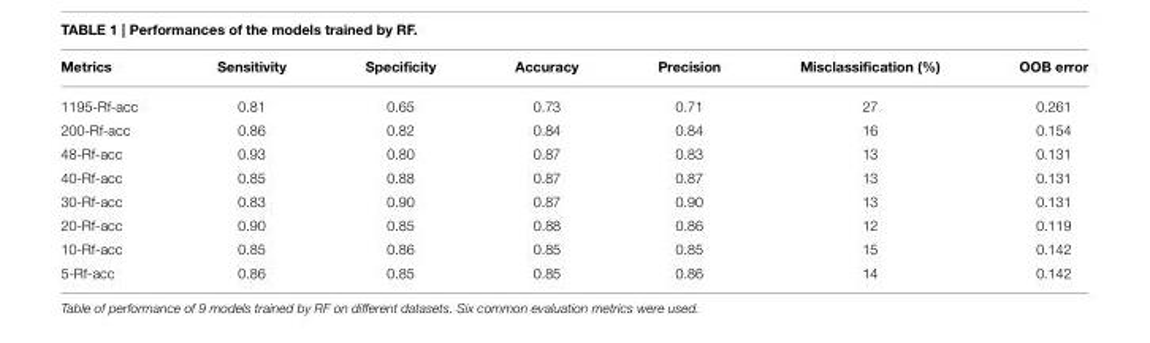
<table><thead><tr><td>Metrics</td><td>Sensitivity</td><td>Specificity</td><td>Accuracy</td><td>Precision</td><td>Misclassification (%)</td><td>OOB error</td></tr></thead><tbody><tr><td>1195-Rf-acc</td><td>0.81</td><td>0.65</td><td>0.73</td><td>0.71</td><td>27</td><td>0.261</td></tr><tr><td>200-Rf-acc</td><td>0.86</td><td>0.82</td><td>0.84</td><td>0.84</td><td>16</td><td>0.154</td></tr><tr><td>48-Rf-acc</td><td>0.93</td><td>0.80</td><td>0.87</td><td>0.83</td><td>13</td><td>0.131</td></tr><tr><td>40-Rf-acc</td><td>0.85</td><td>0.88</td><td>0.87</td><td>0.87</td><td>13</td><td>0.131</td></tr><tr><td>30-Rf-acc</td><td>0.83</td><td>0.90</td><td>0.87</td><td>0.90</td><td>13</td><td>0.131</td></tr><tr><td>20-Rf-acc</td><td>0.90</td><td>0.85</td><td>0.88</td><td>0.86</td><td>12</td><td>0.119</td></tr><tr><td>10-Rf-acc</td><td>0.85</td><td>0.86</td><td>0.85</td><td>0.85</td><td>15</td><td>0.142</td></tr><tr><td>5-Rf-acc</td><td>0.86</td><td>0.85</td><td>0.85</td><td>0.86</td><td>14</td><td>0.142</td></tr></tbody></table>